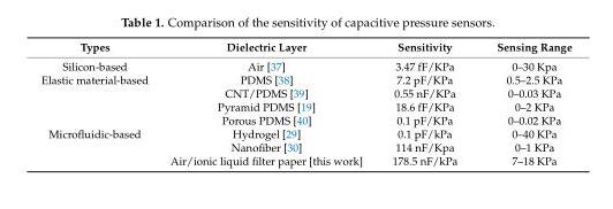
<table><thead><tr><td>Types</td><td>Dielectric Layer</td><td>Sensitivity</td><td>Sensing Range</td></tr></thead><tbody><tr><td>Silicon-based</td><td>Air [37]</td><td>3.47 fF/KPa</td><td>0–30 Kpa</td></tr><tr><td rowspan="4">Elastic material-based</td><td>PDMS [38]</td><td>7.2 pF/KPa</td><td>0.5–2.5 KPa</td></tr><tr><td>CNT/PDMS [39]</td><td>0.55 nF/KPa</td><td>0–0.03 KPa</td></tr><tr><td>Pyramid PDMS [19]</td><td>18.6 fF/KPa</td><td>0–2 KPa</td></tr><tr><td>Porous PDMS [40]</td><td>0.1 pF/KPa</td><td>0–0.02 KPa</td></tr><tr><td rowspan="3">Microfluidic-based</td><td>Hydrogel [29]</td><td>0.1 pF/kPa</td><td>0–40 KPa</td></tr><tr><td>Nanofiber [30]</td><td>114 nF/Kpa</td><td>0–1 KPa</td></tr><tr><td>Air/ionic liquid filter paper [this work]</td><td>178.5 nF/kPa</td><td>7–18 KPa</td></tr></tbody></table>